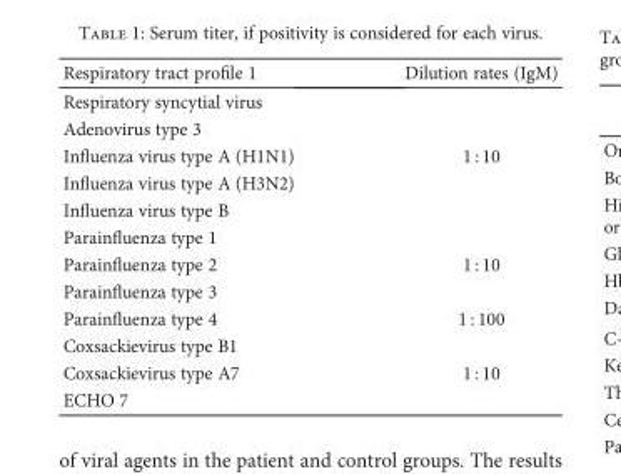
<table><thead><tr><td>Respiratory tract profile 1</td><td>Dilution rates (IgM)</td></tr></thead><tbody><tr><td>Respiratory syncytial virus</td><td rowspan="5">1 : 10</td></tr><tr><td>Adenovirus type 3</td></tr><tr><td>Influenza virus type A (H1N1)</td></tr><tr><td>Influenza virus type A (H3N2)</td></tr><tr><td>Influenza virus type B</td></tr><tr><td>Parainfluenza type 1</td><td rowspan="3">1 : 10</td></tr><tr><td>Parainfluenza type 2</td></tr><tr><td>Parainfluenza type 3</td></tr><tr><td>Parainfluenza type 4</td><td>1 : 100</td></tr><tr><td>Coxsackievirus type B1</td><td rowspan="3">1 : 10</td></tr><tr><td>Coxsackievirus type A7</td></tr><tr><td>ECHO 7</td></tr></tbody></table>